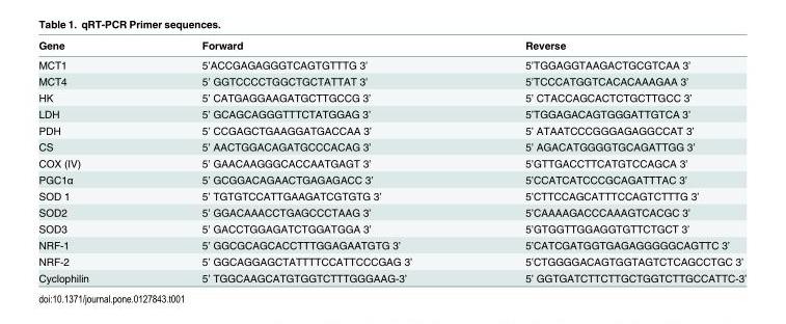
<table><thead><tr><td>Gene</td><td>Forward</td><td>Reverse</td></tr></thead><tbody><tr><td>MCT1</td><td>5’ACCGAGAGGGTCAGTGTTTG 3’</td><td>5’TGGAGGTAAGACTGCGTCAA 3’</td></tr><tr><td>MCT4</td><td>5’ GGTCCCCTGGCTGCTATTAT 3’</td><td>5’TCCCATGGTCACACAAAGAA 3’</td></tr><tr><td>HK</td><td>5’ CATGAGGAAGATGCTTGCCG 3’</td><td>5’ CTACCAGCACTCTGCTTGCC 3’</td></tr><tr><td>LDH</td><td>5’ GCAGCAGGGTTTCTATGGAG 3’</td><td>5’TGGAGACAGTGGGATTGTCA 3’</td></tr><tr><td>PDH</td><td>5’ CCGAGCTGAAGGATGACCAA 3’</td><td>5’ ATAATCCCGGGAGAGGCCAT 3’</td></tr><tr><td>CS</td><td>5’ AACTGGACAGATGCCCACAG 3’</td><td>5’ AGACATGGGGTGCAGATTGG 3’</td></tr><tr><td>COX (IV)</td><td>5’ GAACAAGGGCACCAATGAGT 3’</td><td>5’GTTGACCTTCATGTCCAGCA 3’</td></tr><tr><td>PGC1α</td><td>5’ GCGGACAGAACTGAGAGACC 3’</td><td>5’CCATCATCCCGCAGATTTAC 3’</td></tr><tr><td>SOD 1</td><td>5’ TGTGTCCATTGAAGATCGTGTG 3’</td><td>5’CTTCCAGCATTTCCAGTCTTTG 3’</td></tr><tr><td>SOD2</td><td>5’ GGACAAACCTGAGCCCTAAG 3’</td><td>5’CAAAAGACCCAAAGTCACGC 3’</td></tr><tr><td>SOD3</td><td>5’ GACCTGGAGATCTGGATGGA 3’</td><td>5’GTGGTTGGAGGTGTTCTGCT 3’</td></tr><tr><td>NRF-1</td><td>5’ GGCGCAGCACCTTTGGAGAATGTG 3’</td><td>5’CATCGATGGTGAGAGGGGGCAGTTC 3’</td></tr><tr><td>NRF-2</td><td>5’ GGCAGGAGCTATTTTCCATTCCCGAG 3’</td><td>5’CTGGGGACAGTGGTAGTCTCAGCCTGC 3’</td></tr><tr><td>Cyclophilin</td><td>5’ TGGCAAGCATGTGGTCTTTGGGAAG-3’</td><td>5’ GGTGATCTTCTTGCTGGTCTTGCCATTC-3’</td></tr></tbody></table>